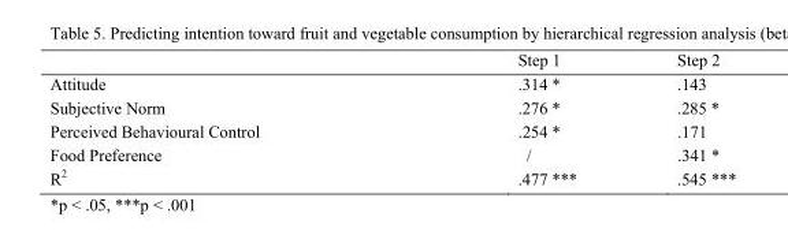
<table><thead><tr><td></td><td>Step 1</td><td>Step 2</td></tr></thead><tbody><tr><td>Attitude</td><td>.314 *</td><td>.143</td></tr><tr><td>Subjective Norm</td><td>.276 *</td><td>.285 *</td></tr><tr><td>Perceived Behavioural Control</td><td>.254 *</td><td>.171</td></tr><tr><td>Food Preference</td><td>/</td><td>.341 *</td></tr><tr><td>R<sup>2</sup></td><td>.477 ***</td><td>.545 ***</td></tr></tbody></table>